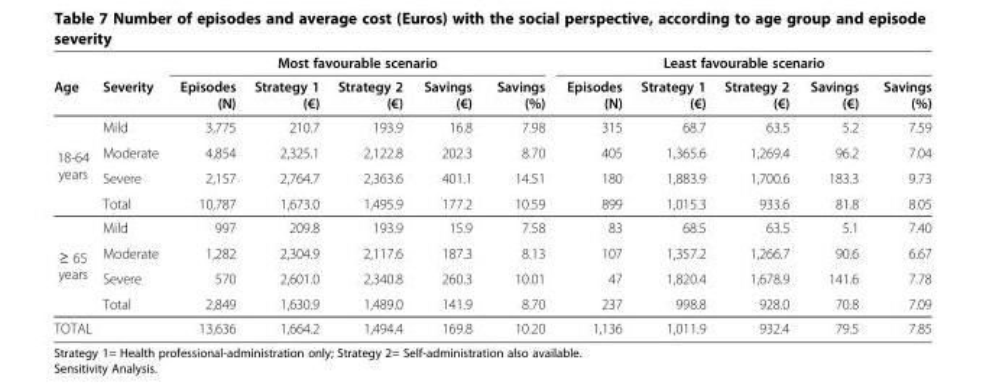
<table><thead><tr><td rowspan="2">Age</td><td rowspan="2">Severity</td><td colspan="5">Most favourable scenario</td><td colspan="5">Least favourable scenario</td></tr><tr><td>Episodes (N)</td><td>Strategy 1 (€)</td><td>Strategy 2 (€)</td><td>Savings (€)</td><td>Savings (%)</td><td>Episodes (N)</td><td>Strategy 1 (€)</td><td>Strategy 2 (€)</td><td>Savings (€)</td><td>Savings (%)</td></tr></thead><tbody><tr><td rowspan="4">18-64 years</td><td>Mild</td><td>3,775</td><td>210.7</td><td>193.9</td><td>16.8</td><td>7.98</td><td>315</td><td>68.7</td><td>63.5</td><td>5.2</td><td>7.59</td></tr><tr><td>Moderate</td><td>4,854</td><td>2,325.1</td><td>2,122.8</td><td>202.3</td><td>8.70</td><td>405</td><td>1,365.6</td><td>1,269.4</td><td>96.2</td><td>7.04</td></tr><tr><td>Severe</td><td>2,157</td><td>2,764.7</td><td>2,363.6</td><td>401.1</td><td>14.51</td><td>180</td><td>1,883.9</td><td>1,700.6</td><td>183.3</td><td>9.73</td></tr><tr><td>Total</td><td>10,787</td><td>1,673.0</td><td>1,495.9</td><td>177.2</td><td>10.59</td><td>899</td><td>1,015.3</td><td>933.6</td><td>81.8</td><td>8.05</td></tr><tr><td rowspan="4">≥ 65 years</td><td>Mild</td><td>997</td><td>209.8</td><td>193.9</td><td>15.9</td><td>7.58</td><td>83</td><td>68.5</td><td>63.5</td><td>5.1</td><td>7.40</td></tr><tr><td>Moderate</td><td>1,282</td><td>2,304.9</td><td>2,117.6</td><td>187.3</td><td>8.13</td><td>107</td><td>1,357.2</td><td>1,266.7</td><td>90.6</td><td>6.67</td></tr><tr><td>Severe</td><td>570</td><td>2,601.0</td><td>2,340.8</td><td>260.3</td><td>10.01</td><td>47</td><td>1,820.4</td><td>1,678.9</td><td>141.6</td><td>7.78</td></tr><tr><td>Total</td><td>2,849</td><td>1,630.9</td><td>1,489.0</td><td>141.9</td><td>8.70</td><td>237</td><td>998.8</td><td>928.0</td><td>70.8</td><td>7.09</td></tr><tr><td>TOTAL</td><td></td><td>13,636</td><td>1,664.2</td><td>1,494.4</td><td>169.8</td><td>10.20</td><td>1,136</td><td>1,011.9</td><td>932.4</td><td>79.5</td><td>7.85</td></tr></tbody></table>